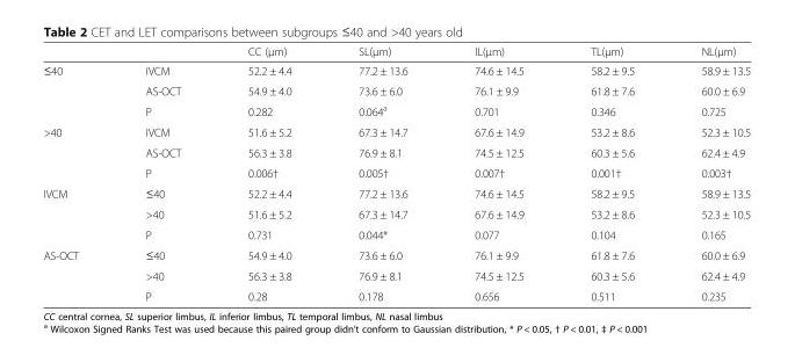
<table><thead><tr><td></td><td></td><td>CC (μm)</td><td>SL(μm)</td><td>IL(μm)</td><td>TL(μm)</td><td>NL(μm)</td></tr></thead><tbody><tr><td rowspan="3">≤40</td><td>IVCM</td><td>52.2 ± 4.4</td><td>77.2 ± 13.6</td><td>74.6 ± 14.5</td><td>58.2 ± 9.5</td><td>58.9 ± 13.5</td></tr><tr><td>AS-OCT</td><td>54.9 ± 4.0</td><td>73.6 ± 6.0</td><td>76.1 ± 9.9</td><td>61.8 ± 7.6</td><td>60.0 ± 6.9</td></tr><tr><td>P</td><td>0.282</td><td>0.064<sup>a</sup></td><td>0.701</td><td>0.346</td><td>0.725</td></tr><tr><td rowspan="3">&gt;40</td><td>IVCM</td><td>51.6 ± 5.2</td><td>67.3 ± 14.7</td><td>67.6 ± 14.9</td><td>53.2 ± 8.6</td><td>52.3 ± 10.5</td></tr><tr><td>AS-OCT</td><td>56.3 ± 3.8</td><td>76.9 ± 8.1</td><td>74.5 ± 12.5</td><td>60.3 ± 5.6</td><td>62.4 ± 4.9</td></tr><tr><td>P</td><td>0.006†</td><td>0.005†</td><td>0.007†</td><td>0.001†</td><td>0.003†</td></tr><tr><td rowspan="3">IVCM</td><td>≤40</td><td>52.2 ± 4.4</td><td>77.2 ± 13.6</td><td>74.6 ± 14.5</td><td>58.2 ± 9.5</td><td>58.9 ± 13.5</td></tr><tr><td>&gt;40</td><td>51.6 ± 5.2</td><td>67.3 ± 14.7</td><td>67.6 ± 14.9</td><td>53.2 ± 8.6</td><td>52.3 ± 10.5</td></tr><tr><td>P</td><td>0.731</td><td>0.044*</td><td>0.077</td><td>0.104</td><td>0.165</td></tr><tr><td rowspan="3">AS-OCT</td><td>≤40</td><td>54.9 ± 4.0</td><td>73.6 ± 6.0</td><td>76.1 ± 9.9</td><td>61.8 ± 7.6</td><td>60.0 ± 6.9</td></tr><tr><td>&gt;40</td><td>56.3 ± 3.8</td><td>76.9 ± 8.1</td><td>74.5 ± 12.5</td><td>60.3 ± 5.6</td><td>62.4 ± 4.9</td></tr><tr><td>P</td><td>0.28</td><td>0.178</td><td>0.656</td><td>0.511</td><td>0.235</td></tr></tbody></table>